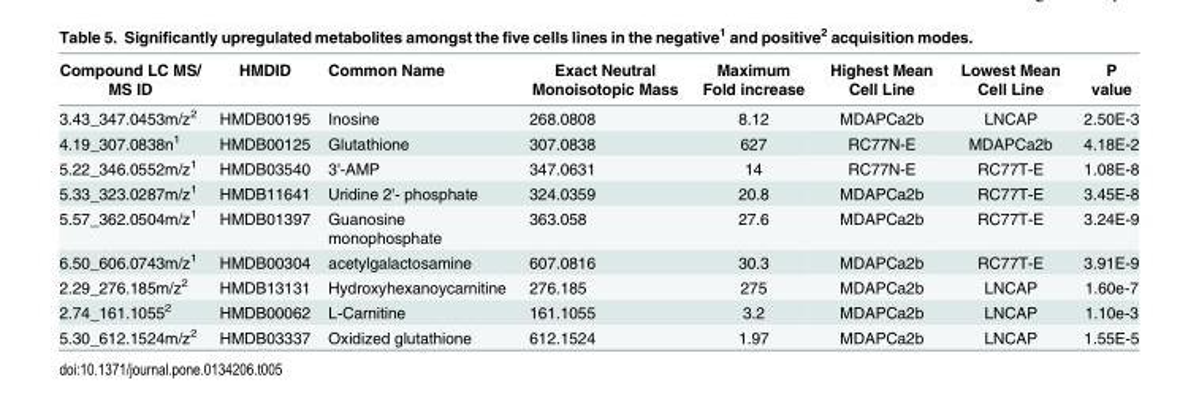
<table><thead><tr><td>Compound LC MS/ MS ID</td><td>HMDID</td><td>Common Name</td><td>Exact Neutral Monoisotopic Mass</td><td>Maximum Fold increase</td><td>Highest Mean Cell Line</td><td>Lowest Mean Cell Line</td><td>P value</td></tr></thead><tbody><tr><td>3.43_347.0453m/z<sup>2</sup></td><td>HMDB00195</td><td>Inosine</td><td>268.0808</td><td>8.12</td><td>MDAPCa2b</td><td>LNCAP</td><td>2.50E-3</td></tr><tr><td>4.19_307.0838n<sup>1</sup></td><td>HMDB00125</td><td>Glutathione</td><td>307.0838</td><td>627</td><td>RC77N-E</td><td>MDAPCa2b</td><td>4.18E-2</td></tr><tr><td>5.22_346.0552m/z<sup>1</sup></td><td>HMDB03540</td><td>3&#x27;-AMP</td><td>347.0631</td><td>14</td><td>RC77N-E</td><td>RC77T-E</td><td>1.08E-8</td></tr><tr><td>5.33_323.0287m/z<sup>1</sup></td><td>HMDB11641</td><td>Uridine 2&#x27;- phosphate</td><td>324.0359</td><td>20.8</td><td>MDAPCa2b</td><td>RC77T-E</td><td>3.45E-8</td></tr><tr><td>5.57_362.0504m/z<sup>1</sup></td><td>HMDB01397</td><td>Guanosine monophosphate</td><td>363.058</td><td>27.6</td><td>MDAPCa2b</td><td>RC77T-E</td><td>3.24E-9</td></tr><tr><td>6.50_606.0743m/z<sup>1</sup></td><td>HMDB00304</td><td>acetylgalactosamine</td><td>607.0816</td><td>30.3</td><td>MDAPCa2b</td><td>RC77T-E</td><td>3.91E-9</td></tr><tr><td>2.29_276.185m/z<sup>2</sup></td><td>HMDB13131</td><td>Hydroxyhexanoycarnitine</td><td>276.185</td><td>275</td><td>MDAPCa2b</td><td>LNCAP</td><td>1.60e-7</td></tr><tr><td>2.74_161.1055<sup>2</sup></td><td>HMDB00062</td><td>L-Carnitine</td><td>161.1055</td><td>3.2</td><td>MDAPCa2b</td><td>LNCAP</td><td>1.10e-3</td></tr><tr><td>5.30_612.1524m/z<sup>2</sup></td><td>HMDB03337</td><td>Oxidized glutathione</td><td>612.1524</td><td>1.97</td><td>MDAPCa2b</td><td>LNCAP</td><td>1.55E-5</td></tr></tbody></table>